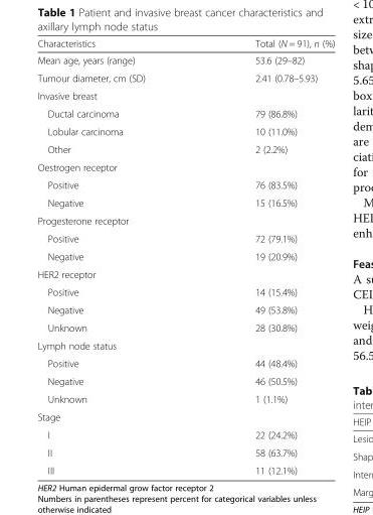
<table><thead><tr><td>Characteristics</td><td>Total (N = 91), n (%)</td></tr></thead><tbody><tr><td>Mean age, years (range)</td><td>53.6 (29–82)</td></tr><tr><td>Tumour diameter, cm (SD)</td><td>2.41 (0.78–5.93)</td></tr><tr><td colspan="2">Invasive breast</td></tr><tr><td>Ductal carcinoma</td><td>79 (86.8%)</td></tr><tr><td>Lobular carcinoma</td><td>10 (11.0%)</td></tr><tr><td>Other</td><td>2 (2.2%)</td></tr><tr><td colspan="2">Oestrogen receptor</td></tr><tr><td>Positive</td><td>76 (83.5%)</td></tr><tr><td>Negative</td><td>15 (16.5%)</td></tr><tr><td colspan="2">Progesterone receptor</td></tr><tr><td>Positive</td><td>72 (79.1%)</td></tr><tr><td>Negative</td><td>19 (20.9%)</td></tr><tr><td colspan="2">HER2 receptor</td></tr><tr><td>Positive</td><td>14 (15.4%)</td></tr><tr><td>Negative</td><td>49 (53.8%)</td></tr><tr><td>Unknown</td><td>28 (30.8%)</td></tr><tr><td colspan="2">Lymph node status</td></tr><tr><td>Positive</td><td>44 (48.4%)</td></tr><tr><td>Negative</td><td>46 (50.5%)</td></tr><tr><td>Unknown</td><td>1 (1.1%)</td></tr><tr><td colspan="2">Stage</td></tr><tr><td>I</td><td>22 (24.2%)</td></tr><tr><td>II</td><td>58 (63.7%)</td></tr><tr><td>III</td><td>11 (12.1%)</td></tr></tbody></table>